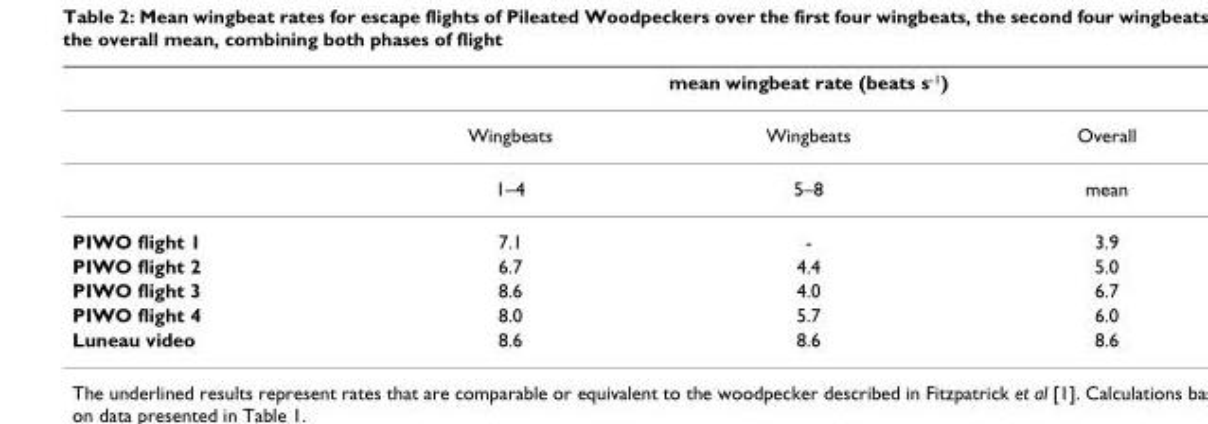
<table><thead><tr><td rowspan="2"></td><td colspan="3">mean wingbeat rate (beats s-1)</td></tr><tr><td>Wingbeats</td><td>Wingbeats</td><td>Overall</td></tr></thead><tbody><tr><td></td><td>1–4</td><td>5–8</td><td>mean</td></tr><tr><td>PIWO flight 1</td><td>7.1</td><td>-</td><td>3.9</td></tr><tr><td>PIWO flight 2</td><td>6.7</td><td>4.4</td><td>5.0</td></tr><tr><td>PIWO flight 3</td><td>8.6</td><td>4.0</td><td>6.7</td></tr><tr><td>PIWO flight 4</td><td>8.0</td><td>5.7</td><td>6.0</td></tr><tr><td>Luneau video</td><td>8.6</td><td>8.6</td><td>8.6</td></tr></tbody></table>